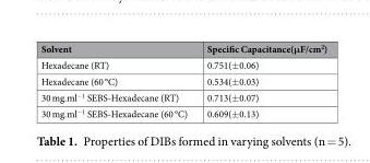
<table><thead><tr><td>Solvent</td><td>Specific Capacitance(μF/cm<sup>2</sup>)</td></tr></thead><tbody><tr><td>Hexadecane (RT)</td><td>0.751(±0.06)</td></tr><tr><td>Hexadecane (60 °C)</td><td>0.534(±0.03)</td></tr><tr><td>30 mg.ml<sup>−1</sup> SEBS-Hexadecane (RT)</td><td>0.713(±0.07)</td></tr><tr><td>30 mg.ml<sup>−1</sup> SEBS-Hexadecane (60 °C)</td><td>0.609(±0.13)</td></tr></tbody></table>